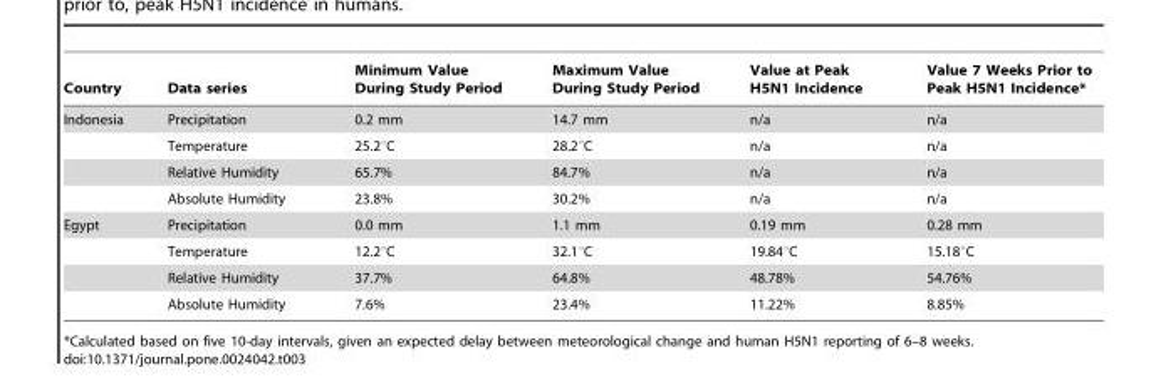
<table><thead><tr><td>Country</td><td>Data series</td><td>Minimum Value During Study Period</td><td>Maximum Value During Study Period</td><td>Value at Peak H5N1 Incidence</td><td>Value 7 Weeks Prior to Peak H5N1 Incidence*</td></tr></thead><tbody><tr><td rowspan="4">Indonesia</td><td>Precipitation</td><td>0.2 mm</td><td>14.7 mm</td><td>n/a</td><td>n/a</td></tr><tr><td>Temperature</td><td>25.2°C</td><td>28.2°C</td><td>n/a</td><td>n/a</td></tr><tr><td>Relative Humidity</td><td>65.7%</td><td>84.7%</td><td>n/a</td><td>n/a</td></tr><tr><td>Absolute Humidity</td><td>23.8%</td><td>30.2%</td><td>n/a</td><td>n/a</td></tr><tr><td rowspan="4">Egypt</td><td>Precipitation</td><td>0.0 mm</td><td>1.1 mm</td><td>0.19 mm</td><td>0.28 mm</td></tr><tr><td>Temperature</td><td>12.2°C</td><td>32.1°C</td><td>19.84°C</td><td>15.18°C</td></tr><tr><td>Relative Humidity</td><td>37.7%</td><td>64.8%</td><td>48.78%</td><td>54.76%</td></tr><tr><td>Absolute Humidity</td><td>7.6%</td><td>23.4%</td><td>11.22%</td><td>8.85%</td></tr></tbody></table>